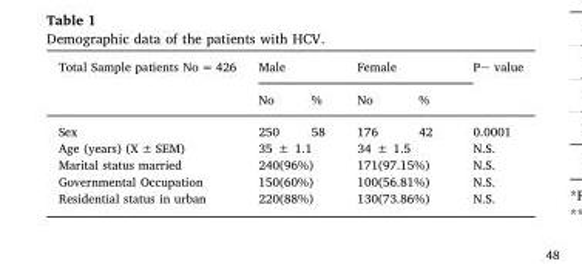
<table><thead><tr><td rowspan="2">Total Sample patients No = 426</td><td colspan="2">Male</td><td colspan="2">Female</td><td rowspan="2">P— value</td></tr><tr><td>No</td><td>%</td><td>No</td><td>%</td></tr></thead><tbody><tr><td>Sex</td><td>250</td><td>58</td><td>176</td><td>42</td><td>0.0001</td></tr><tr><td>Age (years) (X ± SEM)</td><td colspan="2">35 ± 1.1</td><td colspan="2">34 ± 1.5</td><td>N.S.</td></tr><tr><td>Marital status married</td><td colspan="2">240(96%)</td><td colspan="2">171(97.15%)</td><td>N.S.</td></tr><tr><td>Governmental Occupation</td><td colspan="2">150(60%)</td><td colspan="2">100(56.81%)</td><td>N.S.</td></tr><tr><td>Residential status in urban</td><td colspan="2">220(88%)</td><td colspan="2">130(73.86%)</td><td>N.S.</td></tr></tbody></table>